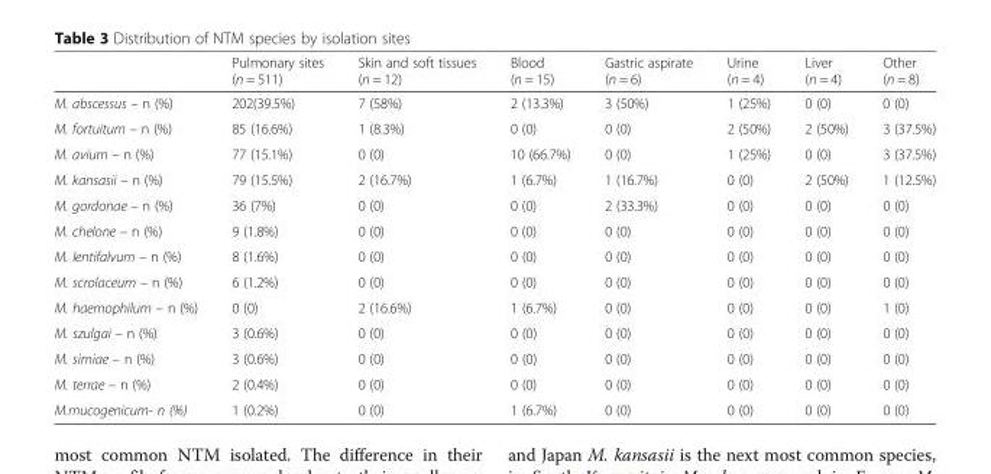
<table><thead><tr><td></td><td>Pulmonary sites (n = 511)</td><td>Skin and soft tissues (n = 12)</td><td>Blood (n = 15)</td><td>Gastric aspirate (n = 6)</td><td>Urine (n = 4)</td><td>Liver (n = 4)</td><td>Other (n = 8)</td></tr></thead><tbody><tr><td>M. abscessus – n (%)</td><td>202(39.5%)</td><td>7 (58%)</td><td>2 (13.3%)</td><td>3 (50%)</td><td>1 (25%)</td><td>0 (0)</td><td>0 (0)</td></tr><tr><td>M. fortuitum – n (%)</td><td>85 (16.6%)</td><td>1 (8.3%)</td><td>0 (0)</td><td>0 (0)</td><td>2 (50%)</td><td>2 (50%)</td><td>3 (37.5%)</td></tr><tr><td>M. avium – n (%)</td><td>77 (15.1%)</td><td>0 (0)</td><td>10 (66.7%)</td><td>0 (0)</td><td>1 (25%)</td><td>0 (0)</td><td>3 (37.5%)</td></tr><tr><td>M. kansasii – n (%)</td><td>79 (15.5%)</td><td>2 (16.7%)</td><td>1 (6.7%)</td><td>1 (16.7%)</td><td>0 (0)</td><td>2 (50%)</td><td>1 (12.5%)</td></tr><tr><td>M. gordonae – n (%)</td><td>36 (7%)</td><td>0 (0)</td><td>0 (0)</td><td>2 (33.3%)</td><td>0 (0)</td><td>0 (0)</td><td>0 (0)</td></tr><tr><td>M. chelone – n (%)</td><td>9 (1.8%)</td><td>0 (0)</td><td>0 (0)</td><td>0 (0)</td><td>0 (0)</td><td>0 (0)</td><td>0 (0)</td></tr><tr><td>M. lentifalvum – n (%)</td><td>8 (1.6%)</td><td>0 (0)</td><td>0 (0)</td><td>0 (0)</td><td>0 (0)</td><td>0 (0)</td><td>0 (0)</td></tr><tr><td>M. scrolaceum – n (%)</td><td>6 (1.2%)</td><td>0 (0)</td><td>0 (0)</td><td>0 (0)</td><td>0 (0)</td><td>0 (0)</td><td>0 (0)</td></tr><tr><td>M. haemophilum – n (%)</td><td>0 (0)</td><td>2 (16.6%)</td><td>1 (6.7%)</td><td>0 (0)</td><td>0 (0)</td><td>0 (0)</td><td>1 (0)</td></tr><tr><td>M. szulgai – n (%)</td><td>3 (0.6%)</td><td>0 (0)</td><td>0 (0)</td><td>0 (0)</td><td>0 (0)</td><td>0 (0)</td><td>0 (0)</td></tr><tr><td>M. simiae – n (%)</td><td>3 (0.6%)</td><td>0 (0)</td><td>0 (0)</td><td>0 (0)</td><td>0 (0)</td><td>0 (0)</td><td>0 (0)</td></tr><tr><td>M. terrae – n (%)</td><td>2 (0.4%)</td><td>0 (0)</td><td>0 (0)</td><td>0 (0)</td><td>0 (0)</td><td>0 (0)</td><td>0 (0)</td></tr><tr><td>M.mucogenicum- n (%)</td><td>1 (0.2%)</td><td>0 (0)</td><td>1 (6.7%)</td><td>0 (0)</td><td>0 (0)</td><td>0 (0)</td><td>0 (0)</td></tr></tbody></table>